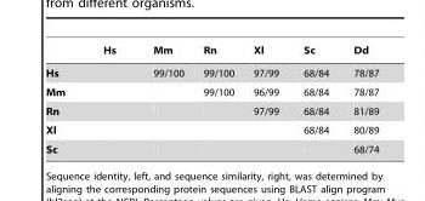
<table><thead><tr><td></td><td>Hs</td><td>Mm</td><td>Rn</td><td>Xl</td><td>Sc</td><td>Dd</td></tr></thead><tbody><tr><td>Hs</td><td></td><td>99/100</td><td>99/100</td><td>97/99</td><td>68/84</td><td>78/87</td></tr><tr><td>Mm</td><td></td><td></td><td>99/100</td><td>96/99</td><td>68/84</td><td>78/87</td></tr><tr><td>Rn</td><td></td><td></td><td></td><td>97/99</td><td>68/84</td><td>81/89</td></tr><tr><td>Xl</td><td></td><td></td><td></td><td></td><td>68/84</td><td>80/89</td></tr><tr><td>Sc</td><td></td><td></td><td></td><td></td><td></td><td>68/74</td></tr></tbody></table>